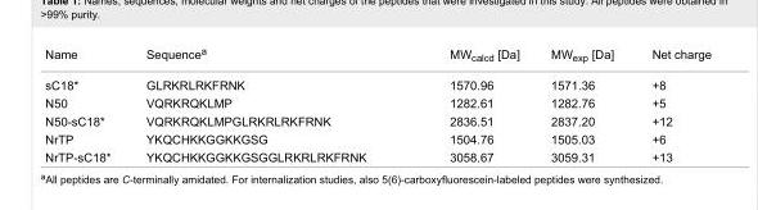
<table><tbody><tr><td>Name</td><td>Sequence<sup>a</sup></td><td>MW<sub>calcd</sub> [Da]</td><td>MW<sub>exp</sub> [Da]</td><td>Net charge</td></tr><tr><td>sC18*</td><td>GLRKRLRKFRNK</td><td>1570.96</td><td>1571.36</td><td>+8</td></tr><tr><td>N50</td><td>VQRKRQKLMP</td><td>1282.61</td><td>1282.76</td><td>+5</td></tr><tr><td>N50-sC18*</td><td>VQRKRQKLMPGLRKRLRKFRNK</td><td>2836.51</td><td>2837.20</td><td>+12</td></tr><tr><td>NrTP</td><td>YKQCHKKGGKKGSG</td><td>1504.76</td><td>1505.03</td><td>+6</td></tr><tr><td>NrTP-sC18*</td><td>YKQCHKKGGKKGSGGLRKRLRKFRNK</td><td>3058.67</td><td>3059.31</td><td>+13</td></tr></tbody></table>